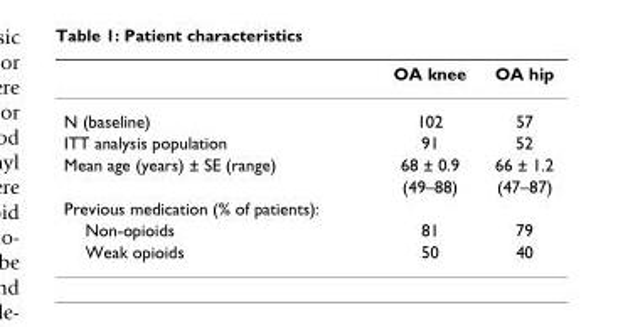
<table><thead><tr><td></td><td>OA knee</td><td>OA hip</td></tr></thead><tbody><tr><td>N (baseline)</td><td>102</td><td>57</td></tr><tr><td>ITT analysis population</td><td>91</td><td>52</td></tr><tr><td rowspan="2">Mean age (years) ± SE (range)</td><td>68 ± 0.9</td><td>66 ± 1.2</td></tr><tr><td>(49–88)</td><td>(47–87)</td></tr><tr><td colspan="3">Previous medication (% of patients):</td></tr><tr><td>Non-opioids</td><td>81</td><td>79</td></tr><tr><td>Weak opioids</td><td>50</td><td>40</td></tr></tbody></table>